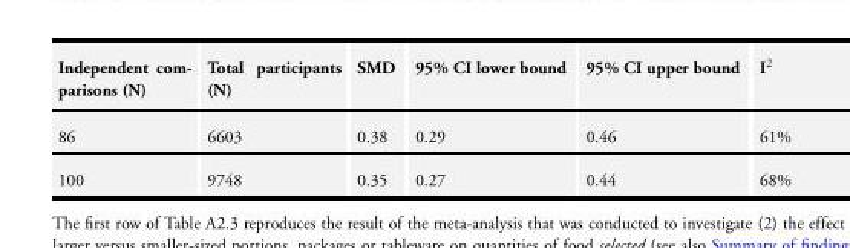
<table><tbody><tr><td>Independent com- parisons (N)</td><td>Total participants (N)</td><td>SMD</td><td>95% CI lower bound</td><td>95% CI upper bound</td><td>I<sup>2</sup></td></tr><tr><td>86</td><td>6603</td><td>0.38</td><td>0.29</td><td>0.46</td><td>61%</td></tr><tr><td>100</td><td>9748</td><td>0.35</td><td>0.27</td><td>0.44</td><td>68%</td></tr></tbody></table>